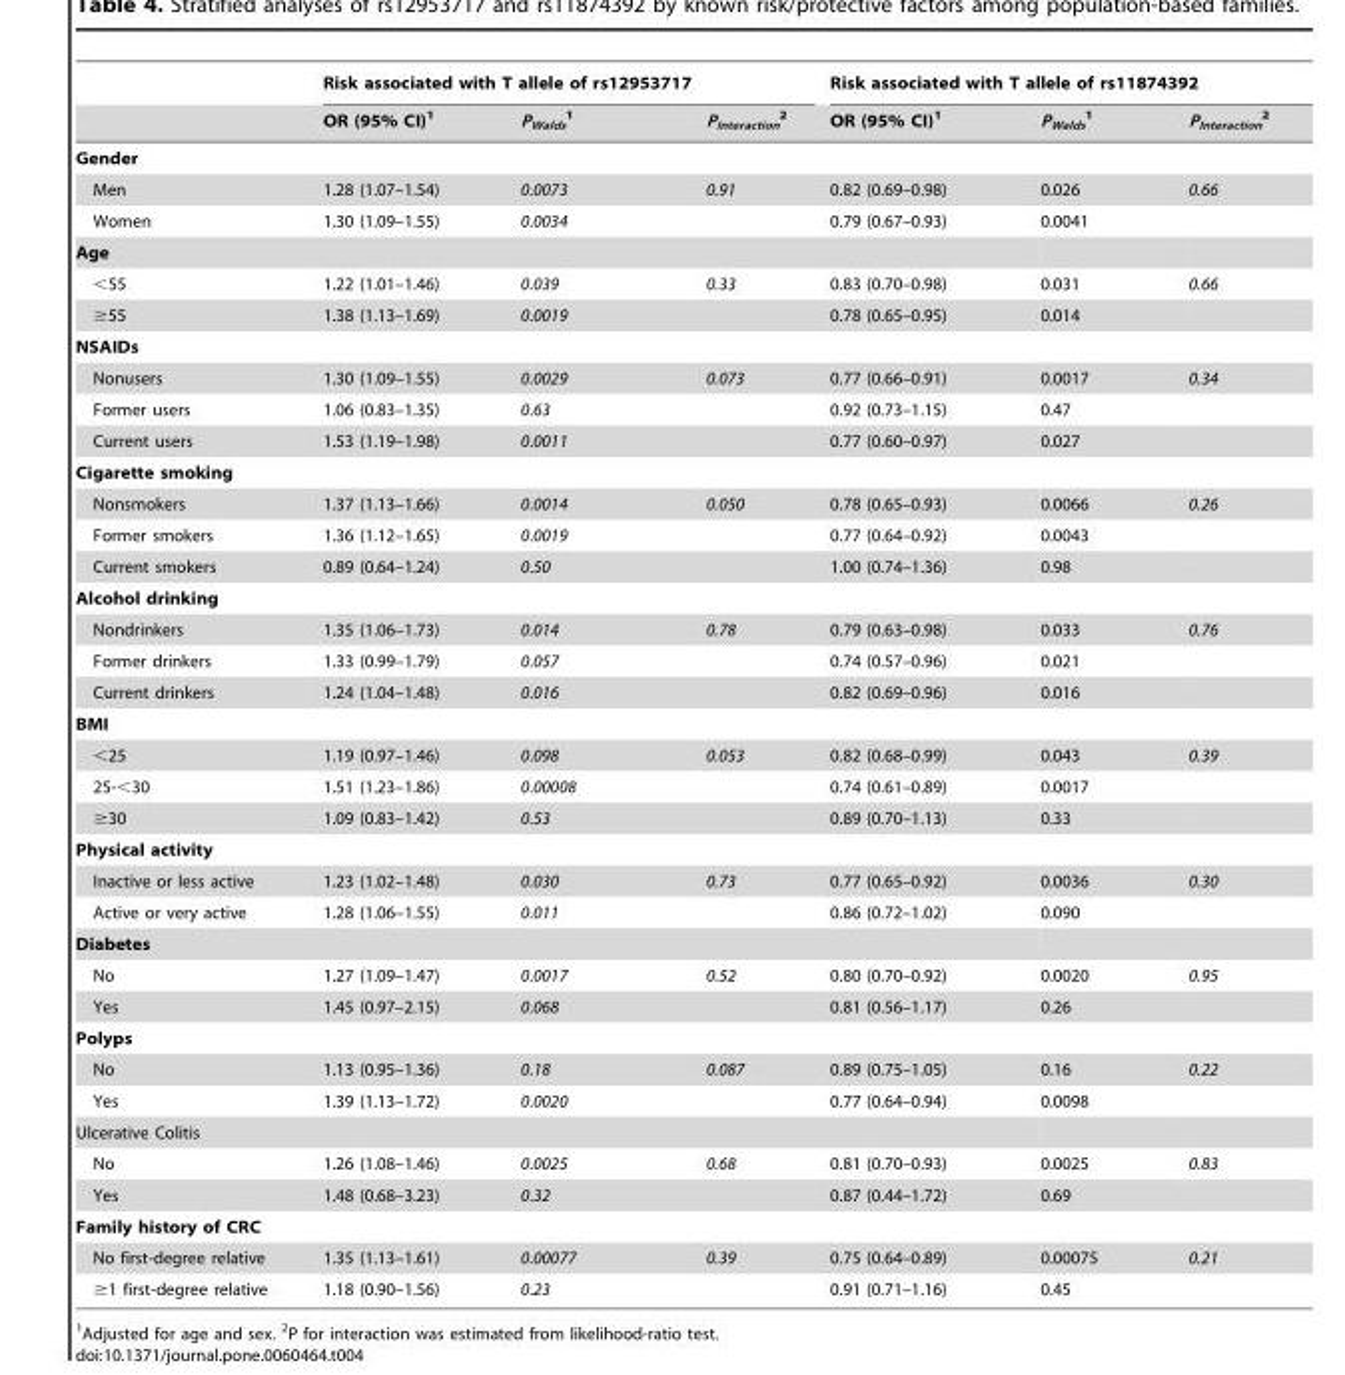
<table><thead><tr><td rowspan="2"></td><td colspan="3">Risk associated with T allele of rs12953717</td><td colspan="3">Risk associated with T allele of rs11874392</td></tr><tr><td>OR (95% CI)<sup>1</sup></td><td>P<sub>Walds</sub> 1</td><td>P<sub>Interaction</sub> <sup>2</sup></td><td>OR (95% CI)<sup>1</sup></td><td>P<sub>Walds</sub> 1</td><td>P<sub>Interaction</sub> <sup>2</sup></td></tr></thead><tbody><tr><td colspan="7">Gender</td></tr><tr><td>Men</td><td>1.28 (1.07–1.54)</td><td>0.0073</td><td>0.91</td><td>0.82 (0.69–0.98)</td><td>0.026</td><td>0.66</td></tr><tr><td>Women</td><td>1.30 (1.09–1.55)</td><td>0.0034</td><td></td><td>0.79 (0.67–0.93)</td><td>0.0041</td><td></td></tr><tr><td colspan="7">Age</td></tr><tr><td>&lt;55</td><td>1.22 (1.01–1.46)</td><td>0.039</td><td>0.33</td><td>0.83 (0.70–0.98)</td><td>0.031</td><td>0.66</td></tr><tr><td>≥55</td><td>1.38 (1.13–1.69)</td><td>0.0019</td><td></td><td>0.78 (0.65–0.95)</td><td>0.014</td><td></td></tr><tr><td colspan="7">NSAIDs</td></tr><tr><td>Nonusers</td><td>1.30 (1.09–1.55)</td><td>0.0029</td><td>0.073</td><td>0.77 (0.66–0.91)</td><td>0.0017</td><td>0.34</td></tr><tr><td>Former users</td><td>1.06 (0.83–1.35)</td><td>0.63</td><td></td><td>0.92 (0.73–1.15)</td><td>0.47</td><td></td></tr><tr><td>Current users</td><td>1.53 (1.19–1.98)</td><td>0.0011</td><td></td><td>0.77 (0.60–0.97)</td><td>0.027</td><td></td></tr><tr><td colspan="7">Cigarette smoking</td></tr><tr><td>Nonsmokers</td><td>1.37 (1.13–1.66)</td><td>0.0014</td><td>0.050</td><td>0.78 (0.65–0.93)</td><td>0.0066</td><td>0.26</td></tr><tr><td>Former smokers</td><td>1.36 (1.12–1.65)</td><td>0.0019</td><td></td><td>0.77 (0.64–0.92)</td><td>0.0043</td><td></td></tr><tr><td>Current smokers</td><td>0.89 (0.64–1.24)</td><td>0.50</td><td></td><td>1.00 (0.74–1.36)</td><td>0.98</td><td></td></tr><tr><td colspan="7">Alcohol drinking</td></tr><tr><td>Nondrinkers</td><td>1.35 (1.06–1.73)</td><td>0.014</td><td>0.78</td><td>0.79 (0.63–0.98)</td><td>0.033</td><td>0.76</td></tr><tr><td>Former drinkers</td><td>1.33 (0.99–1.79)</td><td>0.057</td><td></td><td>0.74 (0.57–0.96)</td><td>0.021</td><td></td></tr><tr><td>Current drinkers</td><td>1.24 (1.04–1.48)</td><td>0.016</td><td></td><td>0.82 (0.69–0.96)</td><td>0.016</td><td></td></tr><tr><td colspan="7">BMI</td></tr><tr><td>&lt;25</td><td>1.19 (0.97–1.46)</td><td>0.098</td><td>0.053</td><td>0.82 (0.68–0.99)</td><td>0.043</td><td>0.39</td></tr><tr><td>25-&lt;30</td><td>1.51 (1.23–1.86)</td><td>0.00008</td><td></td><td>0.74 (0.61–0.89)</td><td>0.0017</td><td></td></tr><tr><td>≥30</td><td>1.09 (0.83–1.42)</td><td>0.53</td><td></td><td>0.89 (0.70–1.13)</td><td>0.33</td><td></td></tr><tr><td colspan="7">Physical activity</td></tr><tr><td>Inactive or less active</td><td>1.23 (1.02–1.48)</td><td>0.030</td><td>0.73</td><td>0.77 (0.65–0.92)</td><td>0.0036</td><td>0.30</td></tr><tr><td>Active or very active</td><td>1.28 (1.06–1.55)</td><td>0.011</td><td></td><td>0.86 (0.72–1.02)</td><td>0.090</td><td></td></tr><tr><td colspan="7">Diabetes</td></tr><tr><td>No</td><td>1.27 (1.09–1.47)</td><td>0.0017</td><td>0.52</td><td>0.80 (0.70–0.92)</td><td>0.0020</td><td>0.95</td></tr><tr><td>Yes</td><td>1.45 (0.97–2.15)</td><td>0.068</td><td></td><td>0.81 (0.56–1.17)</td><td>0.26</td><td></td></tr><tr><td colspan="7">Polyps</td></tr><tr><td>No</td><td>1.13 (0.95–1.36)</td><td>0.18</td><td>0.087</td><td>0.89 (0.75–1.05)</td><td>0.16</td><td>0.22</td></tr><tr><td>Yes</td><td>1.39 (1.13–1.72)</td><td>0.0020</td><td></td><td>0.77 (0.64–0.94)</td><td>0.0098</td><td></td></tr><tr><td colspan="7">Ulcerative Colitis</td></tr><tr><td>No</td><td>1.26 (1.08–1.46)</td><td>0.0025</td><td>0.68</td><td>0.81 (0.70–0.93)</td><td>0.0025</td><td>0.83</td></tr><tr><td>Yes</td><td>1.48 (0.68–3.23)</td><td>0.32</td><td></td><td>0.87 (0.44–1.72)</td><td>0.69</td><td></td></tr><tr><td colspan="7">Family history of CRC</td></tr><tr><td>No first-degree relative</td><td>1.35 (1.13–1.61)</td><td>0.00077</td><td>0.39</td><td>0.75 (0.64–0.89)</td><td>0.00075</td><td>0.21</td></tr><tr><td>≥1 first-degree relative</td><td>1.18 (0.90–1.56)</td><td>0.23</td><td></td><td>0.91 (0.71–1.16)</td><td>0.45</td><td></td></tr></tbody></table>